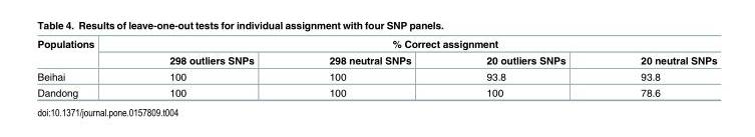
<table><thead><tr><td rowspan="2">Populations</td><td colspan="4">% Correct assignment</td></tr><tr><td>298 outliers SNPs</td><td>298 neutral SNPs</td><td>20 outliers SNPs</td><td>20 neutral SNPs</td></tr></thead><tbody><tr><td>Beihai</td><td>100</td><td>100</td><td>93.8</td><td>93.8</td></tr><tr><td>Dandong</td><td>100</td><td>100</td><td>100</td><td>78.6</td></tr></tbody></table>